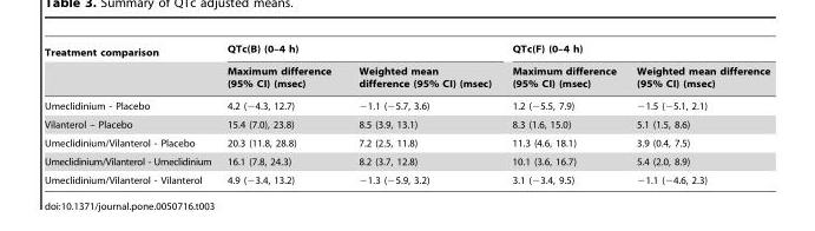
<table><thead><tr><td rowspan="2">Treatment comparison</td><td colspan="2">QTc(B) (0–4 h)</td><td colspan="2">QTc(F) (0–4 h)</td></tr><tr><td>Maximum difference (95% CI) (msec)</td><td>Weighted mean difference (95% CI) (msec)</td><td>Maximum difference (95% CI) (msec)</td><td>Weighted mean difference (95% CI) (msec)</td></tr></thead><tbody><tr><td>Umeclidinium - Placebo</td><td>4.2 (−4.3, 12.7)</td><td>−1.1 (−5.7, 3.6)</td><td>1.2 (−5.5, 7.9)</td><td>−1.5 (−5.1, 2.1)</td></tr><tr><td>Vilanterol – Placebo</td><td>15.4 (7.0), 23.8)</td><td>8.5 (3.9, 13.1)</td><td>8.3 (1.6, 15.0)</td><td>5.1 (1.5, 8.6)</td></tr><tr><td>Umeclidinium/Vilanterol - Placebo</td><td>20.3 (11.8, 28.8)</td><td>7.2 (2.5, 11.8)</td><td>11.3 (4.6, 18.1)</td><td>3.9 (0.4, 7.5)</td></tr><tr><td>Umeclidinium/Vilanterol - Umeclidinium</td><td>16.1 (7.8, 24.3)</td><td>8.2 (3.7, 12.8)</td><td>10.1 (3.6, 16.7)</td><td>5.4 (2.0, 8.9)</td></tr><tr><td>Umeclidinium/Vilanterol - Vilanterol</td><td>4.9 (−3.4, 13.2)</td><td>−1.3 (−5.9, 3.2)</td><td>3.1 (−3.4, 9.5)</td><td>−1.1 (−4.6, 2.3)</td></tr></tbody></table>